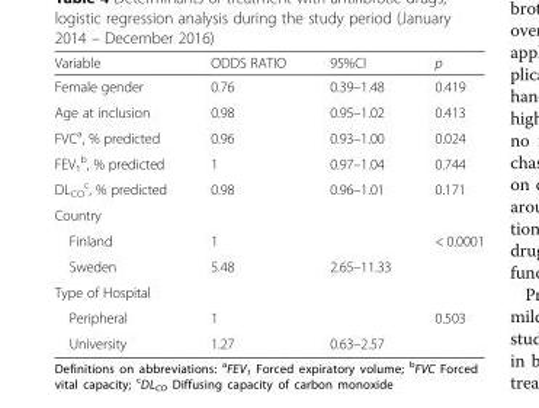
<table><thead><tr><td>Variable</td><td>ODDS RATIO</td><td>95%CI</td><td>p</td></tr></thead><tbody><tr><td>Female gender</td><td>0.76</td><td>0.39–1.48</td><td>0.419</td></tr><tr><td>Age at inclusion</td><td>0.98</td><td>0.95–1.02</td><td>0.413</td></tr><tr><td>FVC<sup>a</sup>, % predicted</td><td>0.96</td><td>0.93–1.00</td><td>0.024</td></tr><tr><td>FEV<sub>1</sub> <sup>b</sup>, % predicted</td><td>1</td><td>0.97–1.04</td><td>0.744</td></tr><tr><td>DL<sub>CO</sub> <sup>c</sup>, % predicted</td><td>0.98</td><td>0.96–1.01</td><td>0.171</td></tr><tr><td colspan="4">Country</td></tr><tr><td>Finland</td><td>1</td><td></td><td rowspan="2">&lt; 0.0001</td></tr><tr><td>Sweden</td><td>5.48</td><td>2.65–11.33</td></tr><tr><td colspan="4">Type of Hospital</td></tr><tr><td>Peripheral</td><td>1</td><td></td><td rowspan="2">0.503</td></tr><tr><td>University</td><td>1.27</td><td>0.63–2.57</td></tr></tbody></table>